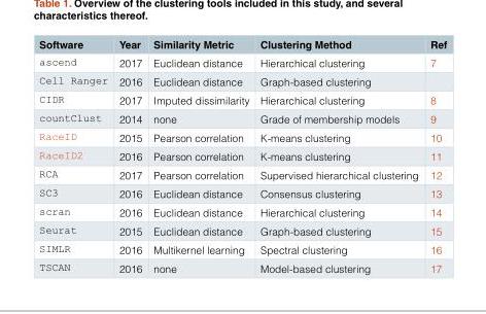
<table><thead><tr><td>Software</td><td>Year</td><td>Similarity Metric</td><td>Clustering Method</td><td>Ref</td></tr></thead><tbody><tr><td>ascend</td><td>2017</td><td>Euclidean distance</td><td>Hierarchical clustering</td><td>7</td></tr><tr><td>Cell Ranger</td><td>2016</td><td>Euclidean distance</td><td>Graph-based clustering</td><td></td></tr><tr><td>CIDR</td><td>2017</td><td>Imputed dissimilarity</td><td>Hierarchical clustering</td><td>8</td></tr><tr><td>countClust</td><td>2014</td><td>none</td><td>Grade of membership models</td><td>9</td></tr><tr><td>RaceID</td><td>2015</td><td>Pearson correlation</td><td>K-means clustering</td><td>10</td></tr><tr><td>RaceID2</td><td>2016</td><td>Pearson correlation</td><td>K-means clustering</td><td>11</td></tr><tr><td>RCA</td><td>2017</td><td>Pearson correlation</td><td>Supervised hierarchical clustering</td><td>12</td></tr><tr><td>SC3</td><td>2016</td><td>Euclidean distance</td><td>Consensus clustering</td><td>13</td></tr><tr><td>scran</td><td>2016</td><td>Euclidean distance</td><td>Hierarchical clustering</td><td>14</td></tr><tr><td>Seurat</td><td>2015</td><td>Euclidean distance</td><td>Graph-based clustering</td><td>15</td></tr><tr><td>SIMLR</td><td>2016</td><td>Multikernel learning</td><td>Spectral clustering</td><td>16</td></tr><tr><td>TSCAN</td><td>2016</td><td>none</td><td>Model-based clustering</td><td>17</td></tr></tbody></table>